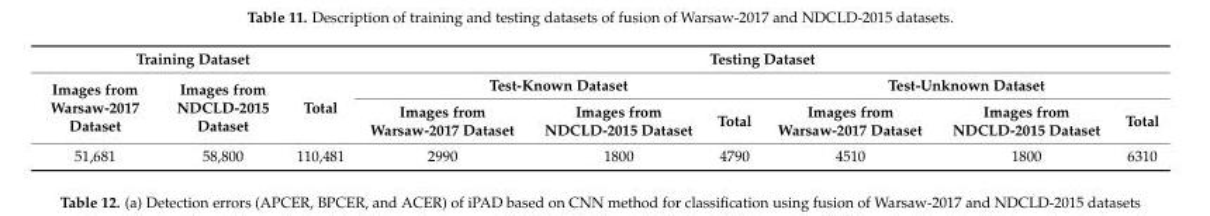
<table><thead><tr><td colspan="3">Training Dataset</td><td colspan="6">Testing Dataset</td></tr><tr><td rowspan="2">Images from Warsaw-2017 Dataset</td><td rowspan="2">Images from NDCLD-2015 Dataset</td><td rowspan="2">Total</td><td colspan="3">Test-Known Dataset</td><td colspan="3">Test-Unknown Dataset</td></tr><tr><td>Images from Warsaw-2017 Dataset</td><td>Images from NDCLD-2015 Dataset</td><td>Total</td><td>Images from Warsaw-2017 Dataset</td><td>Images from NDCLD-2015 Dataset</td><td>Total</td></tr></thead><tbody><tr><td>51,681</td><td>58,800</td><td>110,481</td><td>2990</td><td>1800</td><td>4790</td><td>4510</td><td>1800</td><td>6310</td></tr></tbody></table>